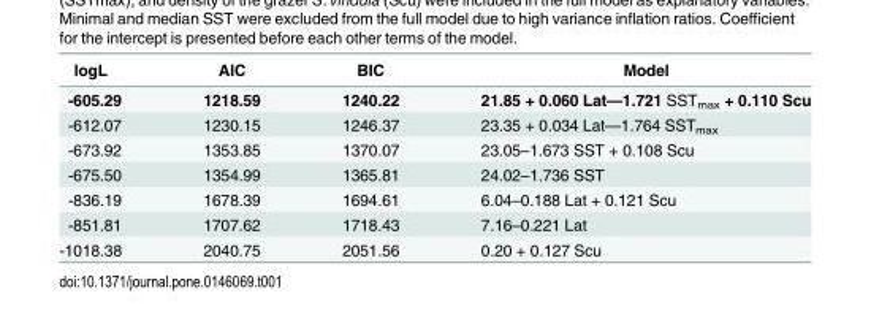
<table><thead><tr><td>logL</td><td>AIC</td><td>BIC</td><td>Model</td></tr></thead><tbody><tr><td>-605.29</td><td>1218.59</td><td>1240.22</td><td>21.85 + 0.060 Lat—1.721 SST<sub>max</sub> + 0.110 Scu</td></tr><tr><td>-612.07</td><td>1230.15</td><td>1246.37</td><td>23.35 + 0.034 Lat—1.764 SST<sub>max</sub></td></tr><tr><td>-673.92</td><td>1353.85</td><td>1370.07</td><td>23.05–1.673 SST + 0.108 Scu</td></tr><tr><td>-675.50</td><td>1354.99</td><td>1365.81</td><td>24.02–1.736 SST</td></tr><tr><td>-836.19</td><td>1678.39</td><td>1694.61</td><td>6.04–0.188 Lat + 0.121 Scu</td></tr><tr><td>-851.81</td><td>1707.62</td><td>1718.43</td><td>7.16–0.221 Lat</td></tr><tr><td>-1018.38</td><td>2040.75</td><td>2051.56</td><td>0.20 + 0.127 Scu</td></tr></tbody></table>